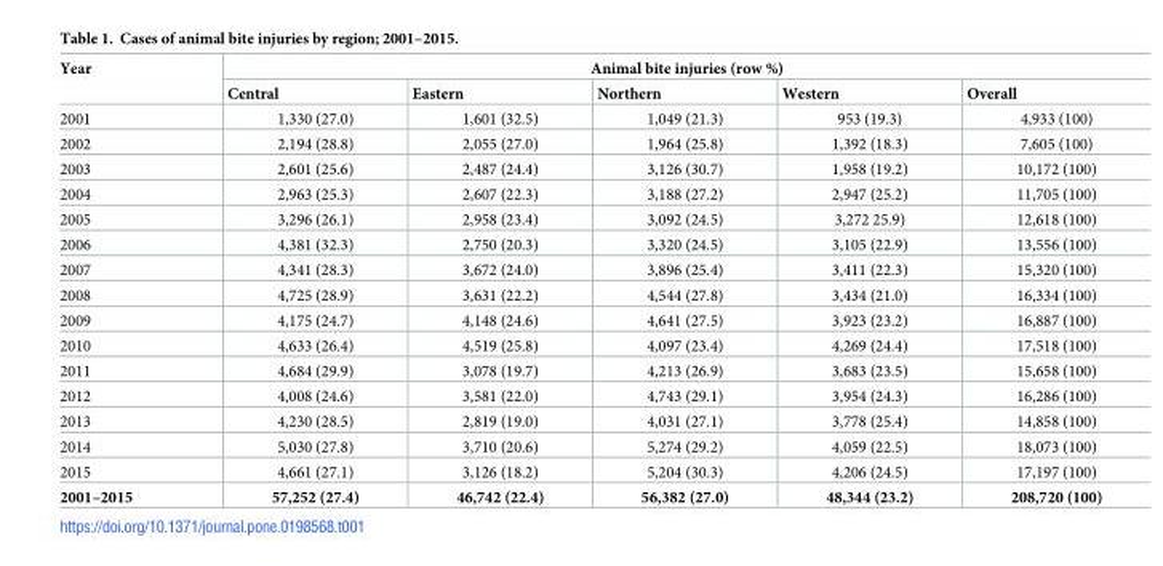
<table><thead><tr><td rowspan="2">Year</td><td colspan="5">Animal bite injuries (row %)</td></tr><tr><td>Central</td><td>Eastern</td><td>Northern</td><td>Western</td><td>Overall</td></tr></thead><tbody><tr><td>2001</td><td>1,330 (27.0)</td><td>1,601 (32.5)</td><td>1,049 (21.3)</td><td>953 (19.3)</td><td>4,933 (100)</td></tr><tr><td>2002</td><td>2,194 (28.8)</td><td>2,055 (27.0)</td><td>1,964 (25.8)</td><td>1,392 (18.3)</td><td>7,605 (100)</td></tr><tr><td>2003</td><td>2,601 (25.6)</td><td>2,487 (24.4)</td><td>3,126 (30.7)</td><td>1,958 (19.2)</td><td>10,172 (100)</td></tr><tr><td>2004</td><td>2,963 (25.3)</td><td>2,607 (22.3)</td><td>3,188 (27.2)</td><td>2,947 (25.2)</td><td>11,705 (100)</td></tr><tr><td>2005</td><td>3,296 (26.1)</td><td>2,958 (23.4)</td><td>3,092 (24.5)</td><td>3,272 25.9)</td><td>12,618 (100)</td></tr><tr><td>2006</td><td>4,381 (32.3)</td><td>2,750 (20.3)</td><td>3,320 (24.5)</td><td>3,105 (22.9)</td><td>13,556 (100)</td></tr><tr><td>2007</td><td>4,341 (28.3)</td><td>3,672 (24.0)</td><td>3,896 (25.4)</td><td>3,411 (22.3)</td><td>15,320 (100)</td></tr><tr><td>2008</td><td>4,725 (28.9)</td><td>3,631 (22.2)</td><td>4,544 (27.8)</td><td>3,434 (21.0)</td><td>16,334 (100)</td></tr><tr><td>2009</td><td>4,175 (24.7)</td><td>4,148 (24.6)</td><td>4,641 (27.5)</td><td>3,923 (23.2)</td><td>16,887 (100)</td></tr><tr><td>2010</td><td>4,633 (26.4)</td><td>4,519 (25.8)</td><td>4,097 (23.4)</td><td>4,269 (24.4)</td><td>17,518 (100)</td></tr><tr><td>2011</td><td>4,684 (29.9)</td><td>3,078 (19.7)</td><td>4,213 (26.9)</td><td>3,683 (23.5)</td><td>15,658 (100)</td></tr><tr><td>2012</td><td>4,008 (24.6)</td><td>3,581 (22.0)</td><td>4,743 (29.1)</td><td>3,954 (24.3)</td><td>16,286 (100)</td></tr><tr><td>2013</td><td>4,230 (28.5)</td><td>2,819 (19.0)</td><td>4,031 (27.1)</td><td>3,778 (25.4)</td><td>14,858 (100)</td></tr><tr><td>2014</td><td>5,030 (27.8)</td><td>3,710 (20.6)</td><td>5,274 (29.2)</td><td>4,059 (22.5)</td><td>18,073 (100)</td></tr><tr><td>2015</td><td>4,661 (27.1)</td><td>3,126 (18.2)</td><td>5,204 (30.3)</td><td>4,206 (24.5)</td><td>17,197 (100)</td></tr><tr><td>2001–2015</td><td>57,252 (27.4)</td><td>46,742 (22.4)</td><td>56,382 (27.0)</td><td>48,344 (23.2)</td><td>208,720 (100)</td></tr></tbody></table>